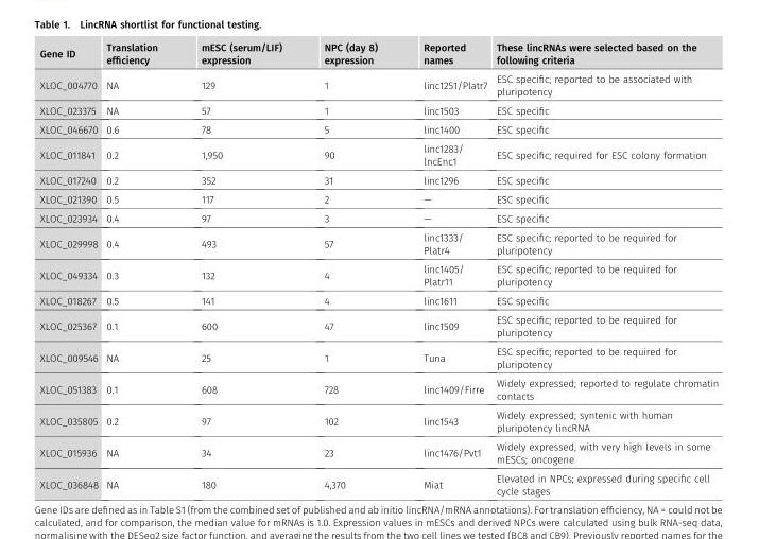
<table><thead><tr><td>Gene ID</td><td>Translation efficiency</td><td>mESC (serum/LIF) expression</td><td>NPC (day 8) expression</td><td>Reported names</td><td>These lincRNAs were selected based on the following criteria</td></tr></thead><tbody><tr><td>XLOC_004770</td><td>NA</td><td>129</td><td>1</td><td>linc1251/Platr7</td><td>ESC specific; reported to be associated with pluripotency</td></tr><tr><td>XLOC_023375</td><td>NA</td><td>57</td><td>1</td><td>linc1503</td><td>ESC specific</td></tr><tr><td>XLOC_046670</td><td>0.6</td><td>78</td><td>5</td><td>linc1400</td><td>ESC specific</td></tr><tr><td>XLOC_011841</td><td>0.2</td><td>1,950</td><td>90</td><td>linc1283/ lncEnc1</td><td>ESC specific; required for ESC colony formation</td></tr><tr><td>XLOC_017240</td><td>0.2</td><td>352</td><td>31</td><td>linc1296</td><td>ESC specific</td></tr><tr><td>XLOC_021390</td><td>0.5</td><td>117</td><td>2</td><td>—</td><td>ESC specific</td></tr><tr><td>XLOC_023934</td><td>0.4</td><td>97</td><td>3</td><td>—</td><td>ESC specific</td></tr><tr><td>XLOC_029998</td><td>0.4</td><td>493</td><td>57</td><td>linc1333/ Platr4</td><td>ESC specific; reported to be required for pluripotency</td></tr><tr><td>XLOC_049334</td><td>0.3</td><td>132</td><td>4</td><td>linc1405/ Platr11</td><td>ESC specific; reported to be required for pluripotency</td></tr><tr><td>XLOC_018267</td><td>0.5</td><td>141</td><td>4</td><td>linc1611</td><td>ESC specific</td></tr><tr><td>XLOC_025367</td><td>0.1</td><td>600</td><td>47</td><td>linc1509</td><td>ESC specific; reported to be required for pluripotency</td></tr><tr><td>XLOC_009546</td><td>NA</td><td>25</td><td>1</td><td>Tuna</td><td>ESC specific; reported to be required for pluripotency</td></tr><tr><td>XLOC_051383</td><td>0.1</td><td>608</td><td>728</td><td>linc1409/Firre</td><td>Widely expressed; reported to regulate chromatin contacts</td></tr><tr><td>XLOC_035805</td><td>0.2</td><td>97</td><td>102</td><td>linc1543</td><td>Widely expressed; syntenic with human pluripotency lincRNA</td></tr><tr><td>XLOC_015936</td><td>NA</td><td>34</td><td>23</td><td>linc1476/Pvt1</td><td>Widely expressed, with very high levels in some mESCs; oncogene</td></tr><tr><td>XLOC_036848</td><td>NA</td><td>180</td><td>4,370</td><td>Miat</td><td>Elevated in NPCs; expressed during specific cell cycle stages</td></tr></tbody></table>